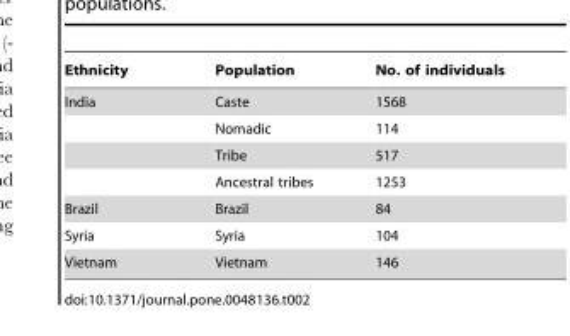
<table><thead><tr><td>Ethnicity</td><td>Population</td><td>No. of individuals</td></tr></thead><tbody><tr><td rowspan="4">India</td><td>Caste</td><td>1568</td></tr><tr><td>Nomadic</td><td>114</td></tr><tr><td>Tribe</td><td>517</td></tr><tr><td>Ancestral tribes</td><td>1253</td></tr><tr><td>Brazil</td><td>Brazil</td><td>84</td></tr><tr><td>Syria</td><td>Syria</td><td>104</td></tr><tr><td>Vietnam</td><td>Vietnam</td><td>146</td></tr></tbody></table>